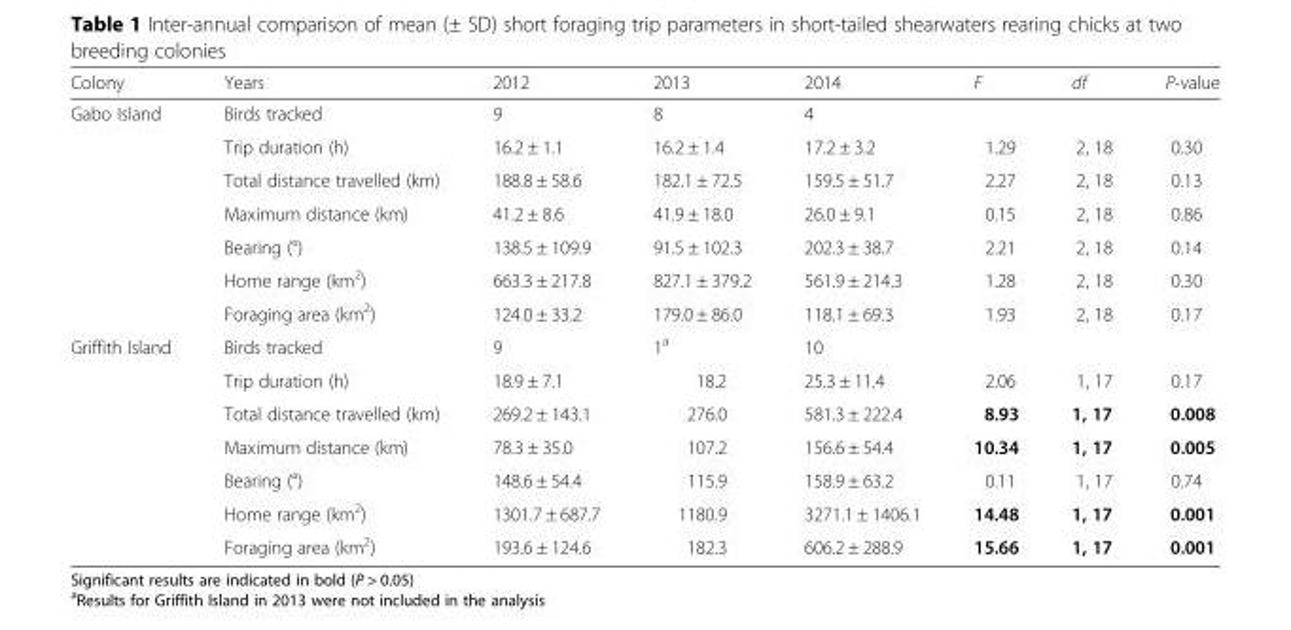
<table><thead><tr><td>Colony</td><td>Years</td><td>2012</td><td>2013</td><td>2014</td><td>F</td><td>df</td><td>P-value</td></tr></thead><tbody><tr><td rowspan="7">Gabo Island</td><td>Birds tracked</td><td>9</td><td>8</td><td>4</td><td></td><td></td><td></td></tr><tr><td>Trip duration (h)</td><td>16.2 ± 1.1</td><td>16.2 ± 1.4</td><td>17.2 ± 3.2</td><td>1.29</td><td>2, 18</td><td>0.30</td></tr><tr><td>Total distance travelled (km)</td><td>188.8 ± 58.6</td><td>182.1 ± 72.5</td><td>159.5 ± 51.7</td><td>2.27</td><td>2, 18</td><td>0.13</td></tr><tr><td>Maximum distance (km)</td><td>41.2 ± 8.6</td><td>41.9 ± 18.0</td><td>26.0 ± 9.1</td><td>0.15</td><td>2, 18</td><td>0.86</td></tr><tr><td>Bearing (°)</td><td>138.5 ± 109.9</td><td>91.5 ± 102.3</td><td>202.3 ± 38.7</td><td>2.21</td><td>2, 18</td><td>0.14</td></tr><tr><td>Home range (km<sup>2</sup>)</td><td>663.3 ± 217.8</td><td>827.1 ± 379.2</td><td>561.9 ± 214.3</td><td>1.28</td><td>2, 18</td><td>0.30</td></tr><tr><td>Foraging area (km<sup>2</sup>)</td><td>124.0 ± 33.2</td><td>179.0 ± 86.0</td><td>118.1 ± 69.3</td><td>1.93</td><td>2, 18</td><td>0.17</td></tr><tr><td rowspan="7">Griffith Island</td><td>Birds tracked</td><td>9</td><td>1<sup>a</sup></td><td>10</td><td></td><td></td><td></td></tr><tr><td>Trip duration (h)</td><td>18.9 ± 7.1</td><td>18.2</td><td>25.3 ± 11.4</td><td>2.06</td><td>1, 17</td><td>0.17</td></tr><tr><td>Total distance travelled (km)</td><td>269.2 ± 143.1</td><td>276.0</td><td>581.3 ± 222.4</td><td>8.93</td><td>1, 17</td><td>0.008</td></tr><tr><td>Maximum distance (km)</td><td>78.3 ± 35.0</td><td>107.2</td><td>156.6 ± 54.4</td><td>10.34</td><td>1, 17</td><td>0.005</td></tr><tr><td>Bearing (°)</td><td>148.6 ± 54.4</td><td>115.9</td><td>158.9 ± 63.2</td><td>0.11</td><td>1, 17</td><td>0.74</td></tr><tr><td>Home range (km<sup>2</sup>)</td><td>1301.7 ± 687.7</td><td>1180.9</td><td>3271.1 ± 1406.1</td><td>14.48</td><td>1, 17</td><td>0.001</td></tr><tr><td>Foraging area (km<sup>2</sup>)</td><td>193.6 ± 124.6</td><td>182.3</td><td>606.2 ± 288.9</td><td>15.66</td><td>1, 17</td><td>0.001</td></tr></tbody></table>